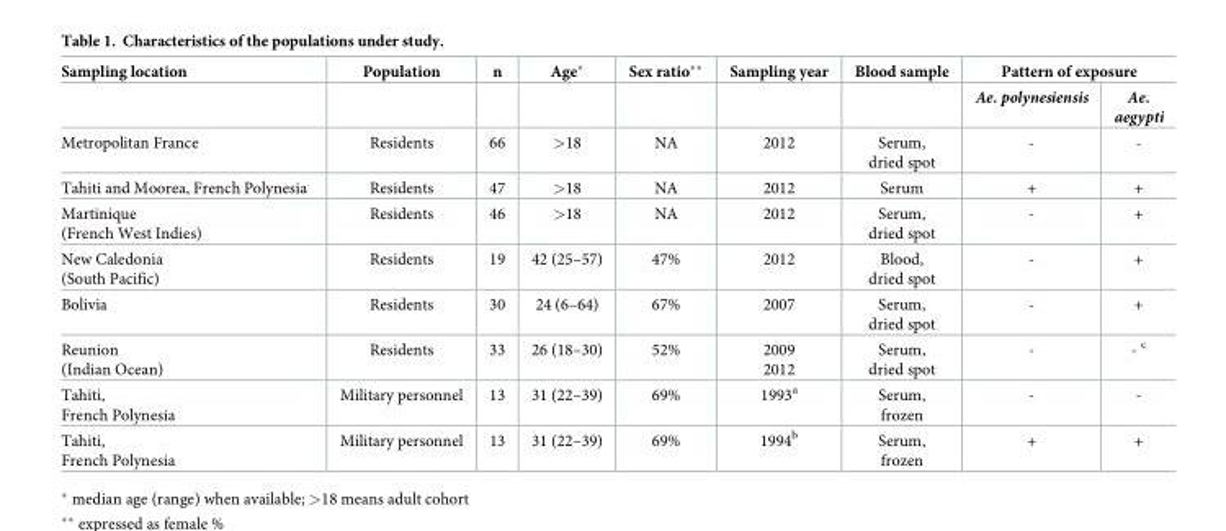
<table><thead><tr><td rowspan="2">Sampling location</td><td rowspan="2">Population</td><td rowspan="2">n</td><td rowspan="2">Age*</td><td rowspan="2">Sex ratio**</td><td rowspan="2">Sampling year</td><td rowspan="2">Blood sample</td><td colspan="2">Pattern of exposure</td></tr><tr><td>Ae. polynesiensis</td><td>Ae. aegypti</td></tr></thead><tbody><tr><td>Metropolitan France</td><td>Residents</td><td>66</td><td>&gt;18</td><td>NA</td><td>2012</td><td>Serum, dried spot</td><td>-</td><td>-</td></tr><tr><td>Tahiti and Moorea, French Polynesia</td><td>Residents</td><td>47</td><td>&gt;18</td><td>NA</td><td>2012</td><td>Serum</td><td>+</td><td>+</td></tr><tr><td>Martinique (French West Indies)</td><td>Residents</td><td>46</td><td>&gt;18</td><td>NA</td><td>2012</td><td>Serum, dried spot</td><td>-</td><td>+</td></tr><tr><td>New Caledonia (South Pacific)</td><td>Residents</td><td>19</td><td>42 (25–57)</td><td>47%</td><td>2012</td><td>Blood, dried spot</td><td>-</td><td>+</td></tr><tr><td>Bolivia</td><td>Residents</td><td>30</td><td>24 (6–64)</td><td>67%</td><td>2007</td><td>Serum, dried spot</td><td>-</td><td>+</td></tr><tr><td>Reunion (Indian Ocean)</td><td>Residents</td><td>33</td><td>26 (18–30)</td><td>52%</td><td>2009 2012</td><td>Serum, dried spot</td><td>-</td><td>- <sup>c</sup></td></tr><tr><td>Tahiti, French Polynesia</td><td>Military personnel</td><td>13</td><td>31 (22–39)</td><td>69%</td><td>1993<sup>a</sup></td><td>Serum, frozen</td><td>-</td><td>-</td></tr><tr><td>Tahiti, French Polynesia</td><td>Military personnel</td><td>13</td><td>31 (22–39)</td><td>69%</td><td>1994<sup>b</sup></td><td>Serum, frozen</td><td>+</td><td>+</td></tr></tbody></table>